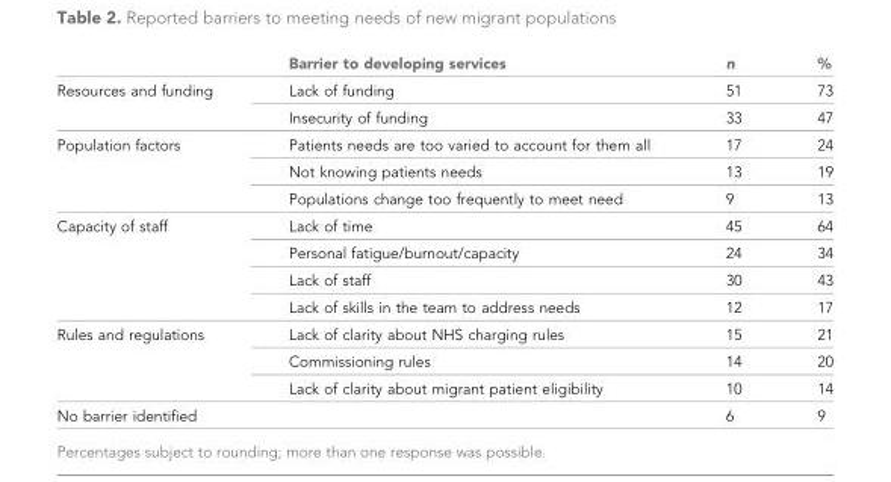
<table><thead><tr><td></td><td>Barrier to developing services</td><td>n</td><td>%</td></tr></thead><tbody><tr><td rowspan="2">Resources and funding</td><td>Lack of funding</td><td>51</td><td>73</td></tr><tr><td>Insecurity of funding</td><td>33</td><td>47</td></tr><tr><td rowspan="3">Population factors</td><td>Patients needs are too varied to account for them all</td><td>17</td><td>24</td></tr><tr><td>Not knowing patients needs</td><td>13</td><td>19</td></tr><tr><td>Populations change too frequently to meet need</td><td>9</td><td>13</td></tr><tr><td rowspan="4">Capacity of staff</td><td>Lack of time</td><td>45</td><td>64</td></tr><tr><td>Personal fatigue/burnout/capacity</td><td>24</td><td>34</td></tr><tr><td>Lack of staff</td><td>30</td><td>43</td></tr><tr><td>Lack of skills in the team to address needs</td><td>12</td><td>17</td></tr><tr><td rowspan="3">Rules and regulations</td><td>Lack of clarity about NHS charging rules</td><td>15</td><td>21</td></tr><tr><td>Commissioning rules</td><td>14</td><td>20</td></tr><tr><td>Lack of clarity about migrant patient eligibility</td><td>10</td><td>14</td></tr><tr><td colspan="2">No barrier identified</td><td>6</td><td>9</td></tr></tbody></table>